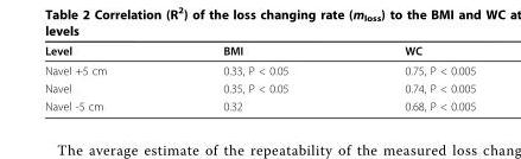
<table><thead><tr><td>Level</td><td>BMI</td><td>WC</td></tr></thead><tbody><tr><td>Navel +5 cm</td><td>0.33, P &lt; 0.05</td><td>0.75, P &lt; 0.005</td></tr><tr><td>Navel</td><td>0.35, P &lt; 0.05</td><td>0.74, P &lt; 0.005</td></tr><tr><td>Navel -5 cm</td><td>0.32</td><td>0.68, P &lt; 0.005</td></tr></tbody></table>